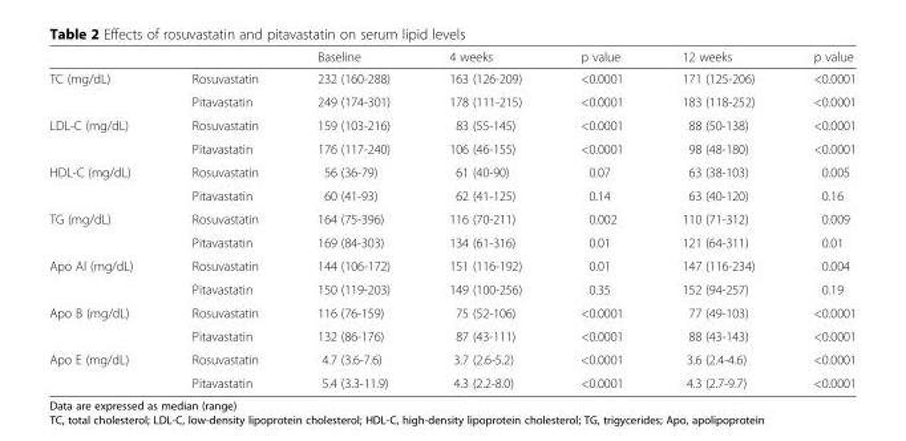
<table><thead><tr><td></td><td></td><td>Baseline</td><td>4 weeks</td><td>p value</td><td>12 weeks</td><td>p value</td></tr></thead><tbody><tr><td rowspan="2">TC (mg/dL)</td><td>Rosuvastatin</td><td>232 (160-288)</td><td>163 (126-209)</td><td>&lt;0.0001</td><td>171 (125-206)</td><td>&lt;0.0001</td></tr><tr><td>Pitavastatin</td><td>249 (174-301)</td><td>178 (111-215)</td><td>&lt;0.0001</td><td>183 (118-252)</td><td>&lt;0.0001</td></tr><tr><td rowspan="2">LDL-C (mg/dL)</td><td>Rosuvastatin</td><td>159 (103-216)</td><td>83 (55-145)</td><td>&lt;0.0001</td><td>88 (50-138)</td><td>&lt;0.0001</td></tr><tr><td>Pitavastatin</td><td>176 (117-240)</td><td>106 (46-155)</td><td>&lt;0.0001</td><td>98 (48-180)</td><td>&lt;0.0001</td></tr><tr><td rowspan="2">HDL-C (mg/dL)</td><td>Rosuvastatin</td><td>56 (36-79)</td><td>61 (40-90)</td><td>0.07</td><td>63 (38-103)</td><td>0.005</td></tr><tr><td>Pitavastatin</td><td>60 (41-93)</td><td>62 (41-125)</td><td>0.14</td><td>63 (40-120)</td><td>0.16</td></tr><tr><td rowspan="2">TG (mg/dL)</td><td>Rosuvastatin</td><td>164 (75-396)</td><td>116 (70-211)</td><td>0.002</td><td>110 (71-312)</td><td>0.009</td></tr><tr><td>Pitavastatin</td><td>169 (84-303)</td><td>134 (61-316)</td><td>0.01</td><td>121 (64-311)</td><td>0.01</td></tr><tr><td rowspan="2">Apo Al (mg/dL)</td><td>Rosuvastatin</td><td>144 (106-172)</td><td>151 (116-192)</td><td>0.01</td><td>147 (116-234)</td><td>0.004</td></tr><tr><td>Pitavastatin</td><td>150 (119-203)</td><td>149 (100-256)</td><td>0.35</td><td>152 (94-257)</td><td>0.19</td></tr><tr><td rowspan="2">Apo B (mg/dL)</td><td>Rosuvastatin</td><td>116 (76-159)</td><td>75 (52-106)</td><td>&lt;0.0001</td><td>77 (49-103)</td><td>&lt;0.0001</td></tr><tr><td>Pitavastatin</td><td>132 (86-176)</td><td>87 (43-111)</td><td>&lt;0.0001</td><td>88 (43-143)</td><td>&lt;0.0001</td></tr><tr><td rowspan="2">Apo E (mg/dL)</td><td>Rosuvastatin</td><td>4.7 (3.6-7.6)</td><td>3.7 (2.6-5.2)</td><td>&lt;0.0001</td><td>3.6 (2.4-4.6)</td><td>&lt;0.0001</td></tr><tr><td>Pitavastatin</td><td>5.4 (3.3-11.9)</td><td>4.3 (2.2-8.0)</td><td>&lt;0.0001</td><td>4.3 (2.7-9.7)</td><td>&lt;0.0001</td></tr></tbody></table>